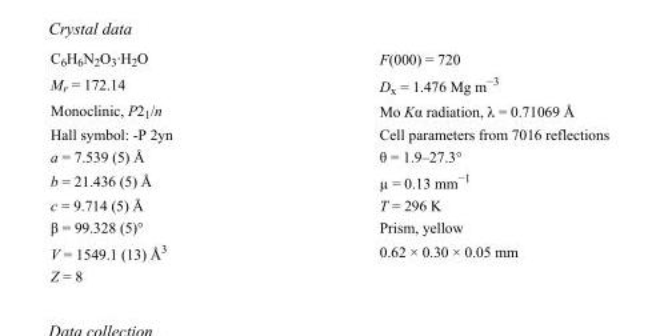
<table><tbody><tr><td>C<sub>6</sub>H<sub>6</sub>N<sub>2</sub>O<sub>3</sub>·H<sub>2</sub>O</td><td>F(000) = 720</td></tr><tr><td>M<sub>r</sub> = 172.14</td><td>D<sub>x</sub> = 1.476 Mg m<sup>−3</sup></td></tr><tr><td>Monoclinic, P2<sub>1</sub>/n</td><td>Mo Kα radiation, λ = 0.71069 Å</td></tr><tr><td>Hall symbol: -P 2yn</td><td>Cell parameters from 7016 reflections</td></tr><tr><td>a = 7.539 (5) Å</td><td>θ = 1.9–27.3°</td></tr><tr><td>b = 21.436 (5) Å</td><td>µ = 0.13 mm<sup>−1</sup></td></tr><tr><td>c = 9.714 (5) Å</td><td>T = 296 K</td></tr><tr><td>β = 99.328 (5)°</td><td>Prism, yellow</td></tr><tr><td>V = 1549.1 (13) Å<sup>3</sup></td><td>0.62 × 0.30 × 0.05 mm</td></tr><tr><td>Z = 8</td><td></td></tr></tbody></table>